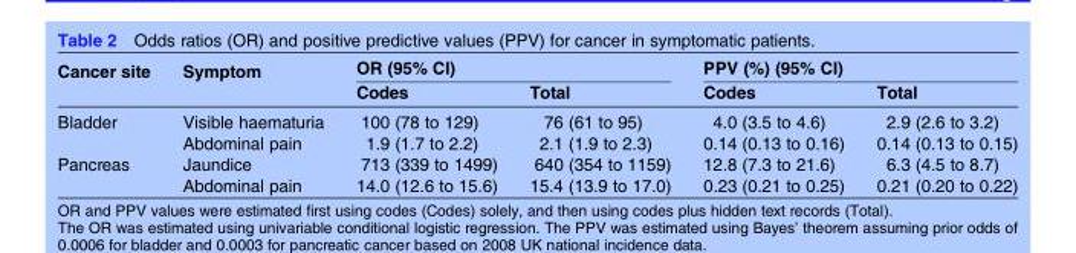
<table><thead><tr><td rowspan="2">Cancer site</td><td rowspan="2">Symptom</td><td colspan="2">OR (95% CI)</td><td colspan="2">PPV (%) (95% CI)</td></tr><tr><td>Codes</td><td>Total</td><td>Codes</td><td>Total</td></tr></thead><tbody><tr><td rowspan="2">Bladder</td><td>Visible haematuria</td><td>100 (78 to 129)</td><td>76 (61 to 95)</td><td>4.0 (3.5 to 4.6)</td><td>2.9 (2.6 to 3.2)</td></tr><tr><td>Abdominal pain</td><td>1.9 (1.7 to 2.2)</td><td>2.1 (1.9 to 2.3)</td><td>0.14 (0.13 to 0.16)</td><td>0.14 (0.13 to 0.15)</td></tr><tr><td rowspan="2">Pancreas</td><td>Jaundice</td><td>713 (339 to 1499)</td><td>640 (354 to 1159)</td><td>12.8 (7.3 to 21.6)</td><td>6.3 (4.5 to 8.7)</td></tr><tr><td>Abdominal pain</td><td>14.0 (12.6 to 15.6)</td><td>15.4 (13.9 to 17.0)</td><td>0.23 (0.21 to 0.25)</td><td>0.21 (0.20 to 0.22)</td></tr></tbody></table>